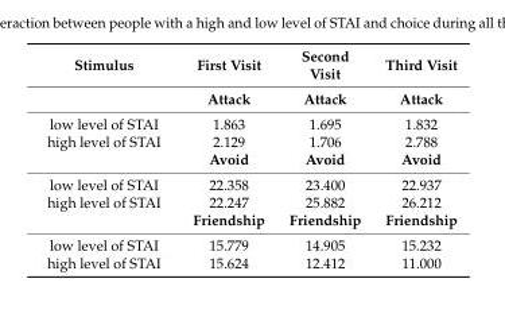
<table><thead><tr><td>Stimulus</td><td>First Visit</td><td>Second Visit</td><td>Third Visit</td></tr></thead><tbody><tr><td></td><td>Attack</td><td>Attack</td><td>Attack</td></tr><tr><td>low level of STAI</td><td>1.863</td><td>1.695</td><td>1.832</td></tr><tr><td rowspan="2">high level of STAI</td><td>2.129</td><td>1.706</td><td>2.788</td></tr><tr><td>Avoid</td><td>Avoid</td><td>Avoid</td></tr><tr><td>low level of STAI</td><td>22.358</td><td>23.400</td><td>22.937</td></tr><tr><td rowspan="2">high level of STAI</td><td>22.247</td><td>25.882</td><td>26.212</td></tr><tr><td>Friendship</td><td>Friendship</td><td>Friendship</td></tr><tr><td>low level of STAI</td><td>15.779</td><td>14.905</td><td>15.232</td></tr><tr><td>high level of STAI</td><td>15.624</td><td>12.412</td><td>11.000</td></tr></tbody></table>